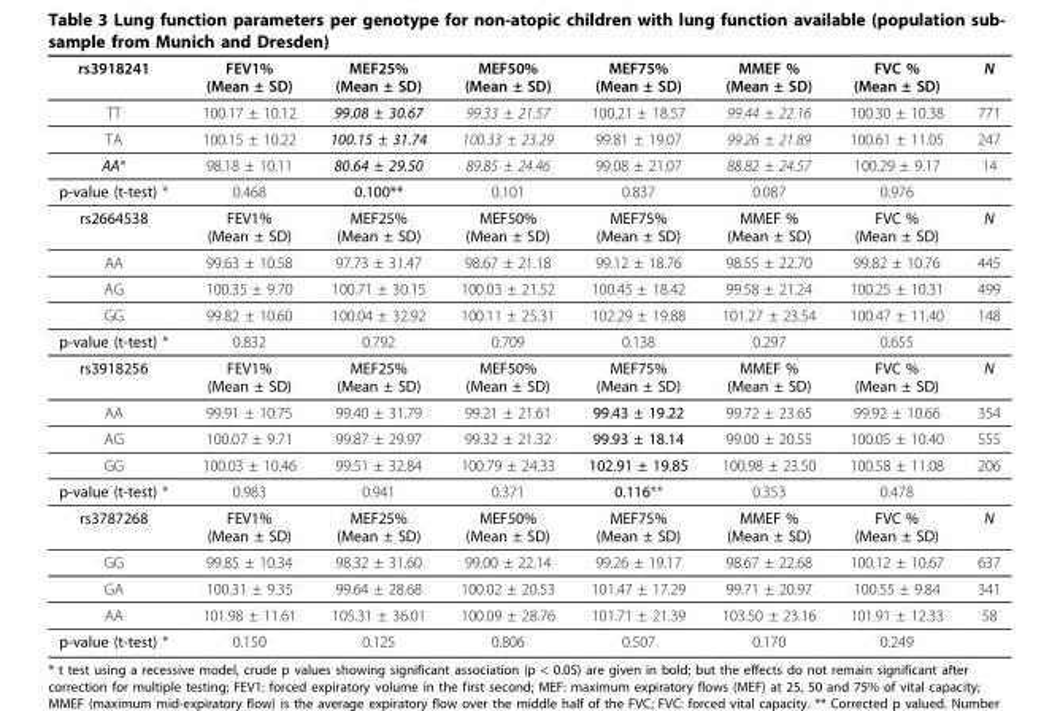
<table><thead><tr><td>rs3918241</td><td>FEV1% (Mean ± SD)</td><td>MEF25% (Mean ± SD)</td><td>MEF50% (Mean ± SD)</td><td>MEF75% (Mean ± SD)</td><td>MMEF % (Mean ± SD)</td><td>FVC % (Mean ± SD)</td><td>N</td></tr></thead><tbody><tr><td>TT</td><td>100.17 ± 10.12</td><td>99.08 ± 30.67</td><td>99.33 ± 21.57</td><td>100.21 ± 18.57</td><td>99.44 ± 22.16</td><td>100.30 ± 10.38</td><td>771</td></tr><tr><td>TA</td><td>100.15 ± 10.22</td><td>100.15 ± 31.74</td><td>100.33 ± 23.29</td><td>99.81 ± 19.07</td><td>99.26 ± 21.89</td><td>100.61 ± 11.05</td><td>247</td></tr><tr><td>AA*</td><td>98.18 ± 10.11</td><td>80.64 ± 29.50</td><td>89.85 ± 24.46</td><td>99.08 ± 21.07</td><td>88.82 ± 24.57</td><td>100.29 ± 9.17</td><td>14</td></tr><tr><td>p-value (t-test) *</td><td>0.468</td><td>0.100**</td><td>0.101</td><td>0.837</td><td>0.087</td><td>0.976</td><td></td></tr><tr><td>rs2664538</td><td>FEV1% (Mean ± SD)</td><td>MEF25% (Mean ± SD)</td><td>MEF50% (Mean ± SD)</td><td>MEF75% (Mean ± SD)</td><td>MMEF % (Mean ± SD)</td><td>FVC % (Mean ± SD)</td><td>N</td></tr><tr><td>AA</td><td>99.63 ± 10.58</td><td>97.73 ± 31.47</td><td>98.67 ± 21.18</td><td>99.12 ± 18.76</td><td>98.55 ± 22.70</td><td>99.82 ± 10.76</td><td>445</td></tr><tr><td>AG</td><td>100.35 ± 9.70</td><td>100.71 ± 30.15</td><td>100.03 ± 21.52</td><td>100.45 ± 18.42</td><td>99.58 ± 21.24</td><td>100.25 ± 10.31</td><td>499</td></tr><tr><td>GG</td><td>99.82 ± 10.60</td><td>100.04 ± 32.92</td><td>100.11 ± 25.31</td><td>102.29 ± 19.88</td><td>101.27 ± 23.54</td><td>100.47 ± 11.40</td><td>148</td></tr><tr><td>p-value (t-test) *</td><td>0.832</td><td>0.792</td><td>0.709</td><td>0.138</td><td>0.297</td><td>0.655</td><td></td></tr><tr><td>rs3918256</td><td>FEV1% (Mean ± SD)</td><td>MEF25% (Mean ± SD)</td><td>MEF50% (Mean ± SD)</td><td>MEF75% (Mean ± SD)</td><td>MMEF % (Mean ± SD)</td><td>FVC % (Mean ± SD)</td><td>N</td></tr><tr><td>AA</td><td>99.91 ± 10.75</td><td>99.40 ± 31.79</td><td>99.21 ± 21.61</td><td>99.43 ± 19.22</td><td>99.72 ± 23.65</td><td>99.92 ± 10.66</td><td>354</td></tr><tr><td>AG</td><td>100.07 ± 9.71</td><td>99.87 ± 29.97</td><td>99.32 ± 21.32</td><td>99.93 ± 18.14</td><td>99.00 ± 20.55</td><td>100.05 ± 10.40</td><td>555</td></tr><tr><td>GG</td><td>100.03 ± 10.46</td><td>99.51 ± 32.84</td><td>100.79 ± 24.33</td><td>102.91 ± 19.85</td><td>100.98 ± 23.50</td><td>100.58 ± 11.08</td><td>206</td></tr><tr><td>p-value (t-test) *</td><td>0.983</td><td>0.941</td><td>0.371</td><td>0.116**</td><td>0.353</td><td>0.478</td><td></td></tr><tr><td>rs3787268</td><td>FEV1% (Mean ± SD)</td><td>MEF25% (Mean ± SD)</td><td>MEF50% (Mean ± SD)</td><td>MEF75% (Mean ± SD)</td><td>MMEF % (Mean ± SD)</td><td>FVC % (Mean ± SD)</td><td>N</td></tr><tr><td>GG</td><td>99.85 ± 10.34</td><td>98.32 ± 31.60</td><td>99.00 ± 22.14</td><td>99.26 ± 19.17</td><td>98.67 ± 22.68</td><td>100.12 ± 10.67</td><td>637</td></tr><tr><td>GA</td><td>100.31 ± 9.35</td><td>99.64 ± 28.68</td><td>100.02 ± 20.53</td><td>101.47 ± 17.29</td><td>99.71 ± 20.97</td><td>100.55 ± 9.84</td><td>341</td></tr><tr><td>AA</td><td>101.98 ± 11.61</td><td>105.31 ± 36.01</td><td>100.09 ± 28.76</td><td>101.71 ± 21.39</td><td>103.50 ± 23.16</td><td>101.91 ± 12.33</td><td>58</td></tr><tr><td>p-value (t-test) *</td><td>0.150</td><td>0.125</td><td>0.806</td><td>0.507</td><td>0.170</td><td>0.249</td><td></td></tr></tbody></table>